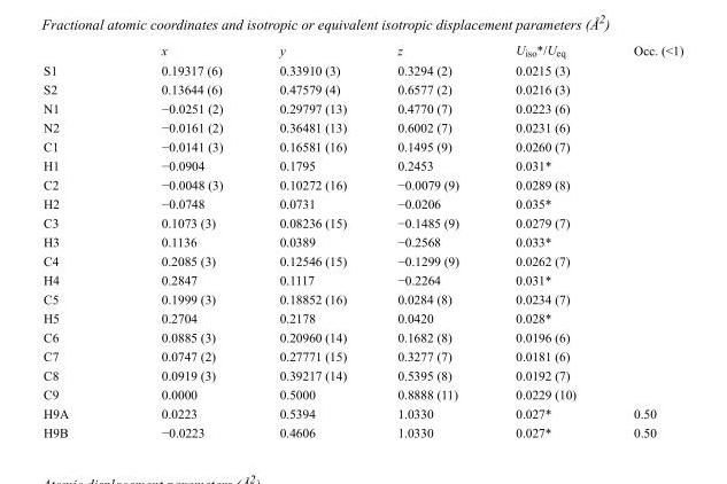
<table><thead><tr><td></td><td>x</td><td>y</td><td>z</td><td>U<sub>iso</sub>*/U<sub>eq</sub></td><td>Occ. (&lt;1)</td></tr></thead><tbody><tr><td>S1</td><td>0.19317 (6)</td><td>0.33910 (3)</td><td>0.3294 (2)</td><td>0.0215 (3)</td><td></td></tr><tr><td>S2</td><td>0.13644 (6)</td><td>0.47579 (4)</td><td>0.6577 (2)</td><td>0.0216 (3)</td><td></td></tr><tr><td>N1</td><td>−0.0251 (2)</td><td>0.29797 (13)</td><td>0.4770 (7)</td><td>0.0223 (6)</td><td></td></tr><tr><td>N2</td><td>−0.0161 (2)</td><td>0.36481 (13)</td><td>0.6002 (7)</td><td>0.0231 (6)</td><td></td></tr><tr><td>C1</td><td>−0.0141 (3)</td><td>0.16581 (16)</td><td>0.1495 (9)</td><td>0.0260 (7)</td><td></td></tr><tr><td>H1</td><td>−0.0904</td><td>0.1795</td><td>0.2453</td><td>0.031*</td><td></td></tr><tr><td>C2</td><td>−0.0048 (3)</td><td>0.10272 (16)</td><td>−0.0079 (9)</td><td>0.0289 (8)</td><td></td></tr><tr><td>H2</td><td>−0.0748</td><td>0.0731</td><td>−0.0206</td><td>0.035*</td><td></td></tr><tr><td>C3</td><td>0.1073 (3)</td><td>0.08236 (15)</td><td>−0.1485 (9)</td><td>0.0279 (7)</td><td></td></tr><tr><td>H3</td><td>0.1136</td><td>0.0389</td><td>−0.2568</td><td>0.033*</td><td></td></tr><tr><td>C4</td><td>0.2085 (3)</td><td>0.12546 (15)</td><td>−0.1299 (9)</td><td>0.0262 (7)</td><td></td></tr><tr><td>H4</td><td>0.2847</td><td>0.1117</td><td>−0.2264</td><td>0.031*</td><td></td></tr><tr><td>C5</td><td>0.1999 (3)</td><td>0.18852 (16)</td><td>0.0284 (8)</td><td>0.0234 (7)</td><td></td></tr><tr><td>H5</td><td>0.2704</td><td>0.2178</td><td>0.0420</td><td>0.028*</td><td></td></tr><tr><td>C6</td><td>0.0885 (3)</td><td>0.20960 (14)</td><td>0.1682 (8)</td><td>0.0196 (6)</td><td></td></tr><tr><td>C7</td><td>0.0747 (2)</td><td>0.27771 (15)</td><td>0.3277 (7)</td><td>0.0181 (6)</td><td></td></tr><tr><td>C8</td><td>0.0919 (3)</td><td>0.39217 (14)</td><td>0.5395 (8)</td><td>0.0192 (7)</td><td></td></tr><tr><td>C9</td><td>0.0000</td><td>0.5000</td><td>0.8888 (11)</td><td>0.0229 (10)</td><td></td></tr><tr><td>H9A</td><td>0.0223</td><td>0.5394</td><td>1.0330</td><td>0.027*</td><td>0.50</td></tr><tr><td>H9B</td><td>−0.0223</td><td>0.4606</td><td>1.0330</td><td>0.027*</td><td>0.50</td></tr></tbody></table>